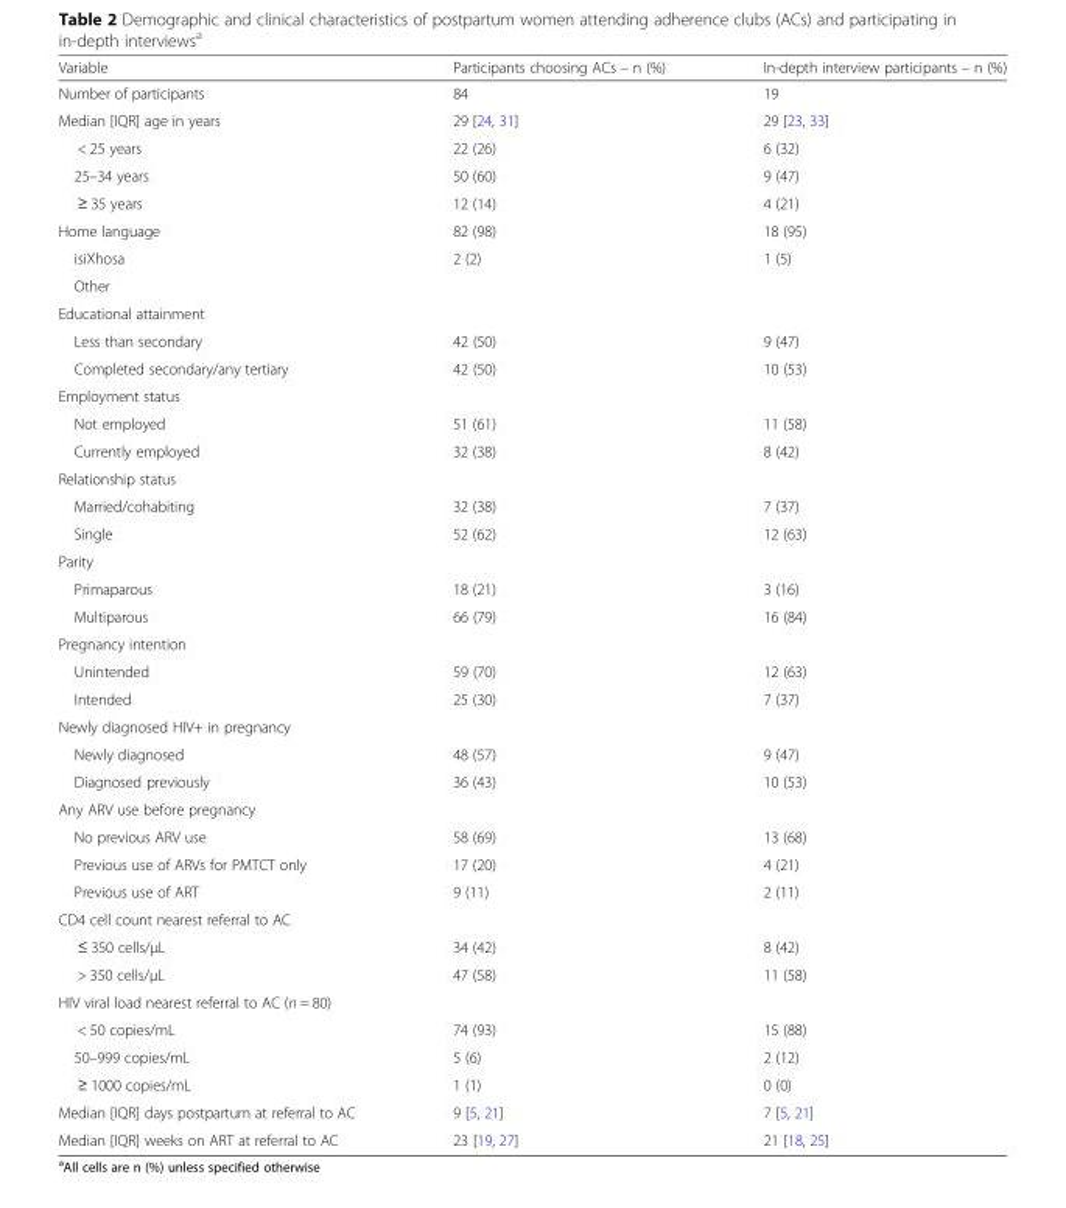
<table><thead><tr><td>Variable</td><td>Participants choosing ACs – n (%)</td><td>In-depth interview participants – n (%)</td></tr></thead><tbody><tr><td>Number of participants</td><td>84</td><td>19</td></tr><tr><td>Median [IQR] age in years</td><td>29 [24, 31]</td><td>29 [23, 33]</td></tr><tr><td>&lt; 25 years</td><td>22 (26)</td><td>6 (32)</td></tr><tr><td>25–34 years</td><td>50 (60)</td><td>9 (47)</td></tr><tr><td>≥ 35 years</td><td>12 (14)</td><td>4 (21)</td></tr><tr><td>Home language</td><td>82 (98)</td><td>18 (95)</td></tr><tr><td>isiXhosa</td><td>2 (2)</td><td>1 (5)</td></tr><tr><td colspan="3">Other</td></tr><tr><td colspan="3">Educational attainment</td></tr><tr><td>Less than secondary</td><td>42 (50)</td><td>9 (47)</td></tr><tr><td>Completed secondary/any tertiary</td><td>42 (50)</td><td>10 (53)</td></tr><tr><td colspan="3">Employment status</td></tr><tr><td>Not employed</td><td>51 (61)</td><td>11 (58)</td></tr><tr><td>Currently employed</td><td>32 (38)</td><td>8 (42)</td></tr><tr><td colspan="3">Relationship status</td></tr><tr><td>Married/cohabiting</td><td>32 (38)</td><td>7 (37)</td></tr><tr><td>Single</td><td>52 (62)</td><td>12 (63)</td></tr><tr><td colspan="3">Parity</td></tr><tr><td>Primaparous</td><td>18 (21)</td><td>3 (16)</td></tr><tr><td>Multiparous</td><td>66 (79)</td><td>16 (84)</td></tr><tr><td colspan="3">Pregnancy intention</td></tr><tr><td>Unintended</td><td>59 (70)</td><td>12 (63)</td></tr><tr><td>Intended</td><td>25 (30)</td><td>7 (37)</td></tr><tr><td colspan="3">Newly diagnosed HIV+ in pregnancy</td></tr><tr><td>Newly diagnosed</td><td>48 (57)</td><td>9 (47)</td></tr><tr><td>Diagnosed previously</td><td>36 (43)</td><td>10 (53)</td></tr><tr><td colspan="3">Any ARV use before pregnancy</td></tr><tr><td>No previous ARV use</td><td>58 (69)</td><td>13 (68)</td></tr><tr><td>Previous use of ARVs for PMTCT only</td><td>17 (20)</td><td>4 (21)</td></tr><tr><td>Previous use of ART</td><td>9 (11)</td><td>2 (11)</td></tr><tr><td colspan="3">CD4 cell count nearest referral to AC</td></tr><tr><td>≤ 350 cells/μL</td><td>34 (42)</td><td>8 (42)</td></tr><tr><td>&gt; 350 cells/μL</td><td>47 (58)</td><td>11 (58)</td></tr><tr><td colspan="3">HIV viral load nearest referral to AC (n = 80)</td></tr><tr><td>&lt; 50 copies/mL</td><td>74 (93)</td><td>15 (88)</td></tr><tr><td>50–999 copies/mL</td><td>5 (6)</td><td>2 (12)</td></tr><tr><td>≥ 1000 copies/mL</td><td>1 (1)</td><td>0 (0)</td></tr><tr><td>Median [IQR] days postpartum at referral to AC</td><td>9 [5, 21]</td><td>7 [5, 21]</td></tr><tr><td>Median [IQR] weeks on ART at referral to AC</td><td>23 [19, 27]</td><td>21 [18, 25]</td></tr></tbody></table>